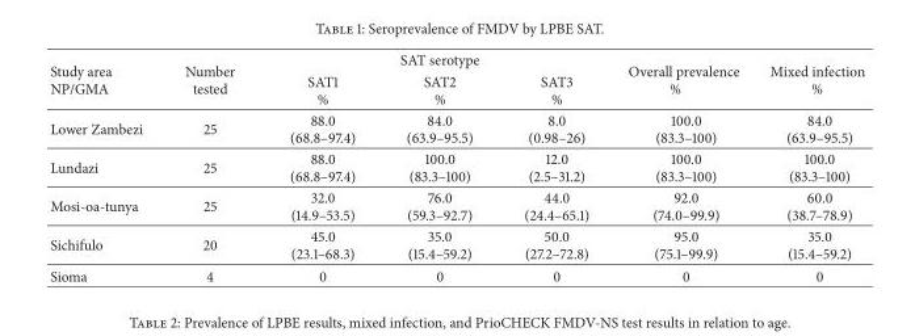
<table><thead><tr><td rowspan="2">Study area NP/GMA</td><td rowspan="2">Number tested</td><td colspan="3">SAT serotype</td><td rowspan="2">Overall prevalence %</td><td rowspan="2">Mixed infection %</td></tr><tr><td>SAT1 %</td><td>SAT2 %</td><td>SAT3 %</td></tr></thead><tbody><tr><td>Lower Zambezi</td><td>25</td><td>88.0 (68.8–97.4)</td><td>84.0 (63.9–95.5)</td><td>8.0 (0.98–26)</td><td>100.0 (83.3–100)</td><td>84.0 (63.9–95.5)</td></tr><tr><td>Lundazi</td><td>25</td><td>88.0 (68.8–97.4)</td><td>100.0 (83.3–100)</td><td>12.0 (2.5–31.2)</td><td>100.0 (83.3–100)</td><td>100.0 (83.3–100)</td></tr><tr><td>Mosi-oa-tunya</td><td>25</td><td>32.0 (14.9–53.5)</td><td>76.0 (59.3–92.7)</td><td>44.0 (24.4–65.1)</td><td>92.0 (74.0–99.9)</td><td>60.0 (38.7–78.9)</td></tr><tr><td>Sichifulo</td><td>20</td><td>45.0 (23.1–68.3)</td><td>35.0 (15.4–59.2)</td><td>50.0 (27.2–72.8)</td><td>95.0 (75.1–99.9)</td><td>35.0 (15.4–59.2)</td></tr><tr><td>Sioma</td><td>4</td><td>0</td><td>0</td><td>0</td><td>0</td><td>0</td></tr></tbody></table>